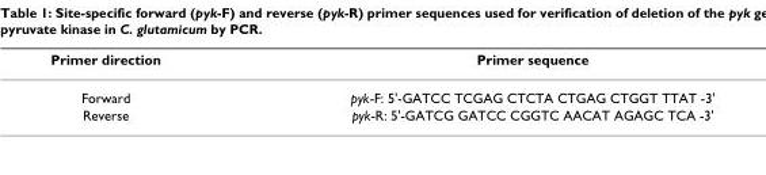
<table><thead><tr><td>Primer direction</td><td>Primer sequence</td></tr></thead><tbody><tr><td>Forward</td><td>pyk-F: 5&#x27;-GATCC TCGAG CTCTA CTGAG CTGGT TTAT -3&#x27;</td></tr><tr><td>Reverse</td><td>pyk-R: 5&#x27;-GATCG GATCC CGGTC AACAT AGAGC TCA -3&#x27;</td></tr></tbody></table>